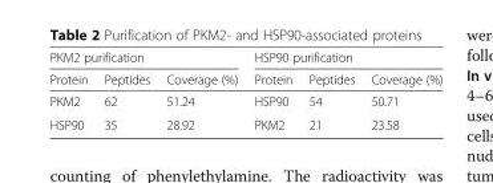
<table><thead><tr><td colspan="3">PKM2 purification</td><td colspan="3">HSP90 purification</td></tr><tr><td>Protein</td><td>Peptides</td><td>Coverage (%)</td><td>Protein</td><td>Peptides</td><td>Coverage (%)</td></tr></thead><tbody><tr><td>PKM2</td><td>62</td><td>51.24</td><td>HSP90</td><td>54</td><td>50.71</td></tr><tr><td>HSP90</td><td>35</td><td>28.92</td><td>PKM2</td><td>21</td><td>23.58</td></tr></tbody></table>